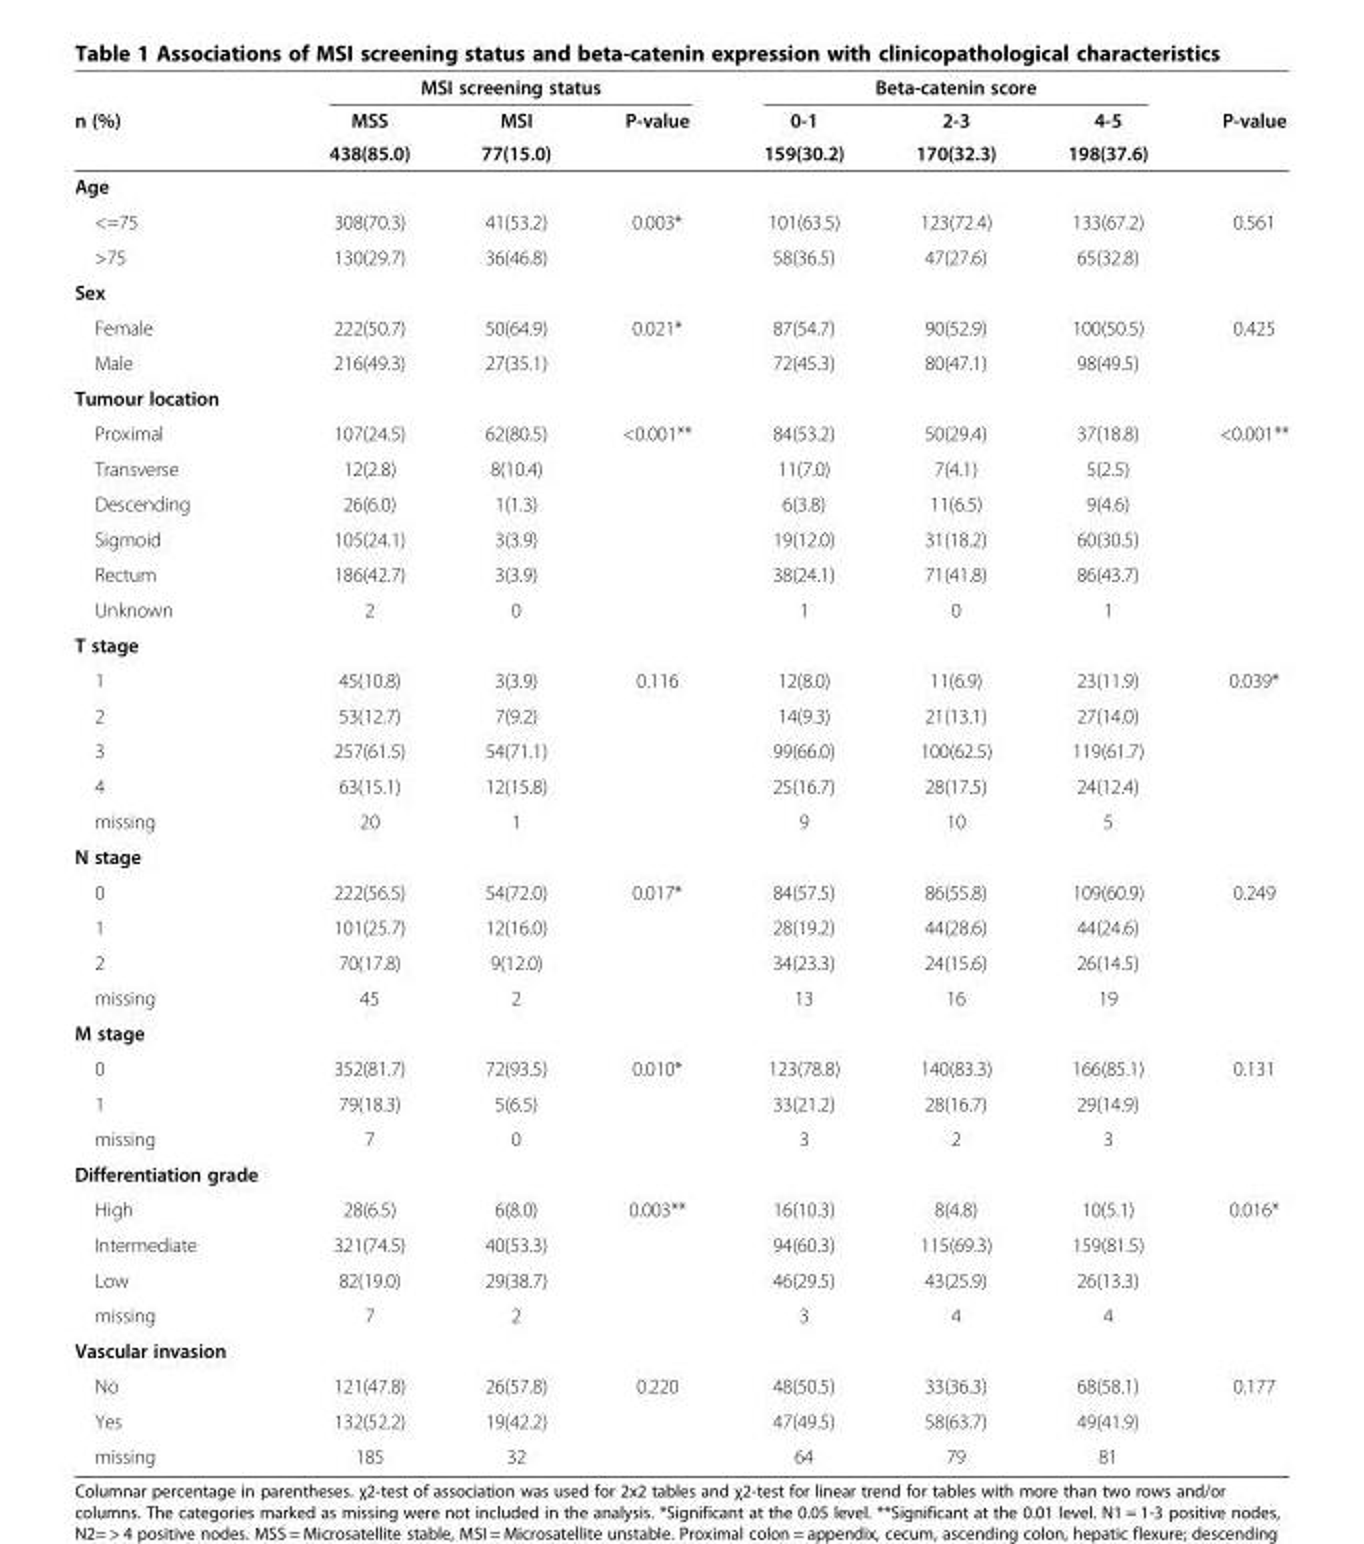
<table><thead><tr><td rowspan="3">n (%)</td><td colspan="3">MSI screening status</td><td colspan="3">Beta-catenin score</td><td rowspan="3">P-value</td></tr><tr><td rowspan="2">MSS 438(85.0)</td><td rowspan="2">MSI 77(15.0)</td><td rowspan="2">P-value</td><td rowspan="2">0-1 159(30.2)</td><td rowspan="2">2-3 170(32.3)</td><td rowspan="2">4-5 198(37.6)</td></tr><tr></tr></thead><tbody><tr><td colspan="8">Age</td></tr><tr><td>&lt;=75</td><td>308(70.3)</td><td>41(53.2)</td><td>0.003*</td><td>101(63.5)</td><td>123(72.4)</td><td>133(67.2)</td><td>0.561</td></tr><tr><td>&gt;75</td><td>130(29.7)</td><td>36(46.8)</td><td></td><td>58(36.5)</td><td>47(27.6)</td><td>65(32.8)</td><td></td></tr><tr><td colspan="8">Sex</td></tr><tr><td>Female</td><td>222(50.7)</td><td>50(64.9)</td><td>0.021*</td><td>87(54.7)</td><td>90(52.9)</td><td>100(50.5)</td><td>0.425</td></tr><tr><td>Male</td><td>216(49.3)</td><td>27(35.1)</td><td></td><td>72(45.3)</td><td>80(47.1)</td><td>98(49.5)</td><td></td></tr><tr><td colspan="8">Tumour location</td></tr><tr><td>Proximal</td><td>107(24.5)</td><td>62(80.5)</td><td>&lt;0.001**</td><td>84(53.2)</td><td>50(29.4)</td><td>37(18.8)</td><td>&lt;0.001**</td></tr><tr><td>Transverse</td><td>12(2.8)</td><td>8(10.4)</td><td></td><td>11(7.0)</td><td>7(4.1)</td><td>5(2.5)</td><td></td></tr><tr><td>Descending</td><td>26(6.0)</td><td>1(1.3)</td><td></td><td>6(3.8)</td><td>11(6.5)</td><td>9(4.6)</td><td></td></tr><tr><td>Sigmoid</td><td>105(24.1)</td><td>3(3.9)</td><td></td><td>19(12.0)</td><td>31(18.2)</td><td>60(30.5)</td><td></td></tr><tr><td>Rectum</td><td>186(42.7)</td><td>3(3.9)</td><td></td><td>38(24.1)</td><td>71(41.8)</td><td>86(43.7)</td><td></td></tr><tr><td>Unknown</td><td>2</td><td>0</td><td></td><td>1</td><td>0</td><td>1</td><td></td></tr><tr><td colspan="8">T stage</td></tr><tr><td>1</td><td>45(10.8)</td><td>3(3.9)</td><td>0.116</td><td>12(8.0)</td><td>11(6.9)</td><td>23(11.9)</td><td>0.039*</td></tr><tr><td>2</td><td>53(12.7)</td><td>7(9.2)</td><td></td><td>14(9.3)</td><td>21(13.1)</td><td>27(14.0)</td><td></td></tr><tr><td>3</td><td>257(61.5)</td><td>54(71.1)</td><td></td><td>99(66.0)</td><td>100(62.5)</td><td>119(61.7)</td><td></td></tr><tr><td>4</td><td>63(15.1)</td><td>12(15.8)</td><td></td><td>25(16.7)</td><td>28(17.5)</td><td>24(12.4)</td><td></td></tr><tr><td>missing</td><td>20</td><td>1</td><td></td><td>9</td><td>10</td><td>5</td><td></td></tr><tr><td colspan="8">N stage</td></tr><tr><td>0</td><td>222(56.5)</td><td>54(72.0)</td><td>0.017*</td><td>84(57.5)</td><td>86(55.8)</td><td>109(60.9)</td><td>0.249</td></tr><tr><td>1</td><td>101(25.7)</td><td>12(16.0)</td><td></td><td>28(19.2)</td><td>44(28.6)</td><td>44(24.6)</td><td></td></tr><tr><td>2</td><td>70(17.8)</td><td>9(12.0)</td><td></td><td>34(23.3)</td><td>24(15.6)</td><td>26(14.5)</td><td></td></tr><tr><td>missing</td><td>45</td><td>2</td><td></td><td>13</td><td>16</td><td>19</td><td></td></tr><tr><td colspan="8">M stage</td></tr><tr><td>0</td><td>352(81.7)</td><td>72(93.5)</td><td>0.010*</td><td>123(78.8)</td><td>140(83.3)</td><td>166(85.1)</td><td>0.131</td></tr><tr><td>1</td><td>79(18.3)</td><td>5(6.5)</td><td></td><td>33(21.2)</td><td>28(16.7)</td><td>29(14.9)</td><td></td></tr><tr><td>missing</td><td>7</td><td>0</td><td></td><td>3</td><td>2</td><td>3</td><td></td></tr><tr><td colspan="8">Differentiation grade</td></tr><tr><td>High</td><td>28(6.5)</td><td>6(8.0)</td><td>0.003**</td><td>16(10.3)</td><td>8(4.8)</td><td>10(5.1)</td><td>0.016*</td></tr><tr><td>Intermediate</td><td>321(74.5)</td><td>40(53.3)</td><td></td><td>94(60.3)</td><td>115(69.3)</td><td>159(81.5)</td><td></td></tr><tr><td>Low</td><td>82(19.0)</td><td>29(38.7)</td><td></td><td>46(29.5)</td><td>43(25.9)</td><td>26(13.3)</td><td></td></tr><tr><td>missing</td><td>7</td><td>2</td><td></td><td>3</td><td>4</td><td>4</td><td></td></tr><tr><td colspan="8">Vascular invasion</td></tr><tr><td>No</td><td>121(47.8)</td><td>26(57.8)</td><td>0.220</td><td>48(50.5)</td><td>33(36.3)</td><td>68(58.1)</td><td>0.177</td></tr><tr><td>Yes</td><td>132(52.2)</td><td>19(42.2)</td><td></td><td>47(49.5)</td><td>58(63.7)</td><td>49(41.9)</td><td></td></tr><tr><td>missing</td><td>185</td><td>32</td><td></td><td>64</td><td>79</td><td>81</td><td></td></tr></tbody></table>